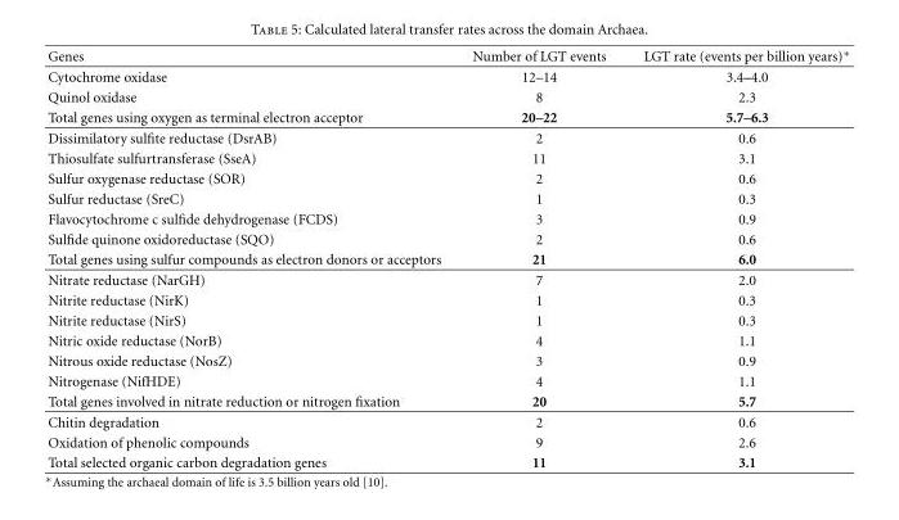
<table><thead><tr><td>Genes</td><td>Number of LGT events</td><td>LGT rate (events per billion years)∗</td></tr></thead><tbody><tr><td>Cytochrome oxidase</td><td>12–14</td><td>3.4–4.0</td></tr><tr><td>Quinol oxidase</td><td>8</td><td>2.3</td></tr><tr><td>Total genes using oxygen as terminal electron acceptor</td><td>20–22</td><td>5.7–6.3</td></tr><tr><td>Dissimilatory sulfite reductase (DsrAB)</td><td>2</td><td>0.6</td></tr><tr><td>Thiosulfate sulfurtransferase (SseA)</td><td>11</td><td>3.1</td></tr><tr><td>Sulfur oxygenase reductase (SOR)</td><td>2</td><td>0.6</td></tr><tr><td>Sulfur reductase (SreC)</td><td>1</td><td>0.3</td></tr><tr><td>Flavocytochrome c sulfide dehydrogenase (FCDS)</td><td>3</td><td>0.9</td></tr><tr><td>Sulfide quinone oxidoreductase (SQO)</td><td>2</td><td>0.6</td></tr><tr><td>Total genes using sulfur compounds as electron donors or acceptors</td><td>21</td><td>6.0</td></tr><tr><td>Nitrate reductase (NarGH)</td><td>7</td><td>2.0</td></tr><tr><td>Nitrite reductase (NirK)</td><td>1</td><td>0.3</td></tr><tr><td>Nitrite reductase (NirS)</td><td>1</td><td>0.3</td></tr><tr><td>Nitric oxide reductase (NorB)</td><td>4</td><td>1.1</td></tr><tr><td>Nitrous oxide reductase (NosZ)</td><td>3</td><td>0.9</td></tr><tr><td>Nitrogenase (NifHDE)</td><td>4</td><td>1.1</td></tr><tr><td>Total genes involved in nitrate reduction or nitrogen fixation</td><td>20</td><td>5.7</td></tr><tr><td>Chitin degradation</td><td>2</td><td>0.6</td></tr><tr><td>Oxidation of phenolic compounds</td><td>9</td><td>2.6</td></tr><tr><td>Total selected organic carbon degradation genes</td><td>11</td><td>3.1</td></tr></tbody></table>